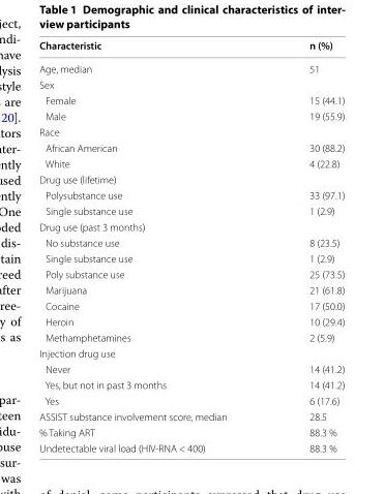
<table><thead><tr><td>Characteristic</td><td>n (%)</td></tr></thead><tbody><tr><td>Age, median</td><td>51</td></tr><tr><td colspan="2">Sex</td></tr><tr><td>Female</td><td>15 (44.1)</td></tr><tr><td>Male</td><td>19 (55.9)</td></tr><tr><td colspan="2">Race</td></tr><tr><td>African American</td><td>30 (88.2)</td></tr><tr><td>White</td><td>4 (22.8)</td></tr><tr><td colspan="2">Drug use (lifetime)</td></tr><tr><td>Polysubstance use</td><td>33 (97.1)</td></tr><tr><td>Single substance use</td><td>1 (2.9)</td></tr><tr><td colspan="2">Drug use (past 3 months)</td></tr><tr><td>No substance use</td><td>8 (23.5)</td></tr><tr><td>Single substance use</td><td>1 (2.9)</td></tr><tr><td>Poly substance use</td><td>25 (73.5)</td></tr><tr><td>Marijuana</td><td>21 (61.8)</td></tr><tr><td>Cocaine</td><td>17 (50.0)</td></tr><tr><td>Heroin</td><td>10 (29.4)</td></tr><tr><td>Methamphetamines</td><td>2 (5.9)</td></tr><tr><td colspan="2">Injection drug use</td></tr><tr><td>Never</td><td>14 (41.2)</td></tr><tr><td>Yes, but not in past 3 months</td><td>14 (41.2)</td></tr><tr><td>Yes</td><td>6 (17.6)</td></tr><tr><td>ASSIST substance involvement score, median</td><td>28.5</td></tr><tr><td>% Taking ART</td><td>88.3 %</td></tr><tr><td>Undetectable viral load (HIV-RNA &lt; 400)</td><td>88.3 %</td></tr></tbody></table>